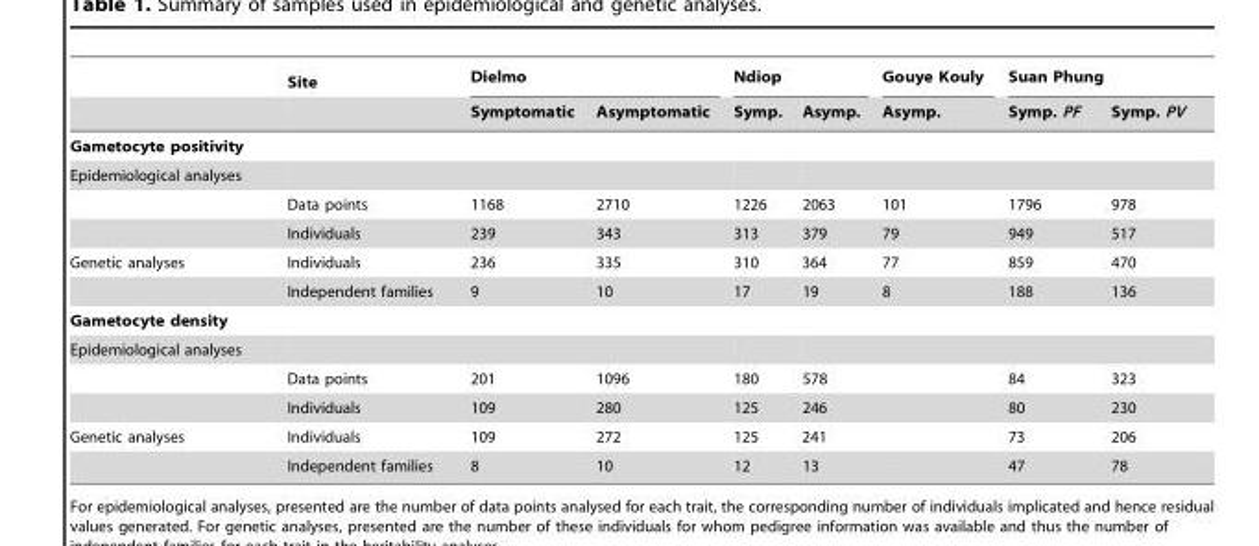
<table><thead><tr><td rowspan="2"></td><td rowspan="2">Site</td><td colspan="2">Dielmo</td><td colspan="2">Ndiop</td><td rowspan="2">Gouye Kouly Asymp.</td><td colspan="2">Suan Phung</td></tr><tr><td>Symptomatic</td><td>Asymptomatic</td><td>Symp.</td><td>Asymp.</td><td>Symp. PF</td><td>Symp. PV</td></tr></thead><tbody><tr><td colspan="9">Gametocyte positivity</td></tr><tr><td colspan="9">Epidemiological analyses</td></tr><tr><td></td><td>Data points</td><td>1168</td><td>2710</td><td>1226</td><td>2063</td><td>101</td><td>1796</td><td>978</td></tr><tr><td></td><td>Individuals</td><td>239</td><td>343</td><td>313</td><td>379</td><td>79</td><td>949</td><td>517</td></tr><tr><td rowspan="2">Genetic analyses</td><td>Individuals</td><td>236</td><td>335</td><td>310</td><td>364</td><td>77</td><td>859</td><td>470</td></tr><tr><td>Independent families</td><td>9</td><td>10</td><td>17</td><td>19</td><td>8</td><td>188</td><td>136</td></tr><tr><td colspan="9">Gametocyte density</td></tr><tr><td colspan="9">Epidemiological analyses</td></tr><tr><td></td><td>Data points</td><td>201</td><td>1096</td><td>180</td><td>578</td><td></td><td>84</td><td>323</td></tr><tr><td></td><td>Individuals</td><td>109</td><td>280</td><td>125</td><td>246</td><td></td><td>80</td><td>230</td></tr><tr><td rowspan="2">Genetic analyses</td><td>Individuals</td><td>109</td><td>272</td><td>125</td><td>241</td><td></td><td>73</td><td>206</td></tr><tr><td>Independent families</td><td>8</td><td>10</td><td>12</td><td>13</td><td></td><td>47</td><td>78</td></tr></tbody></table>